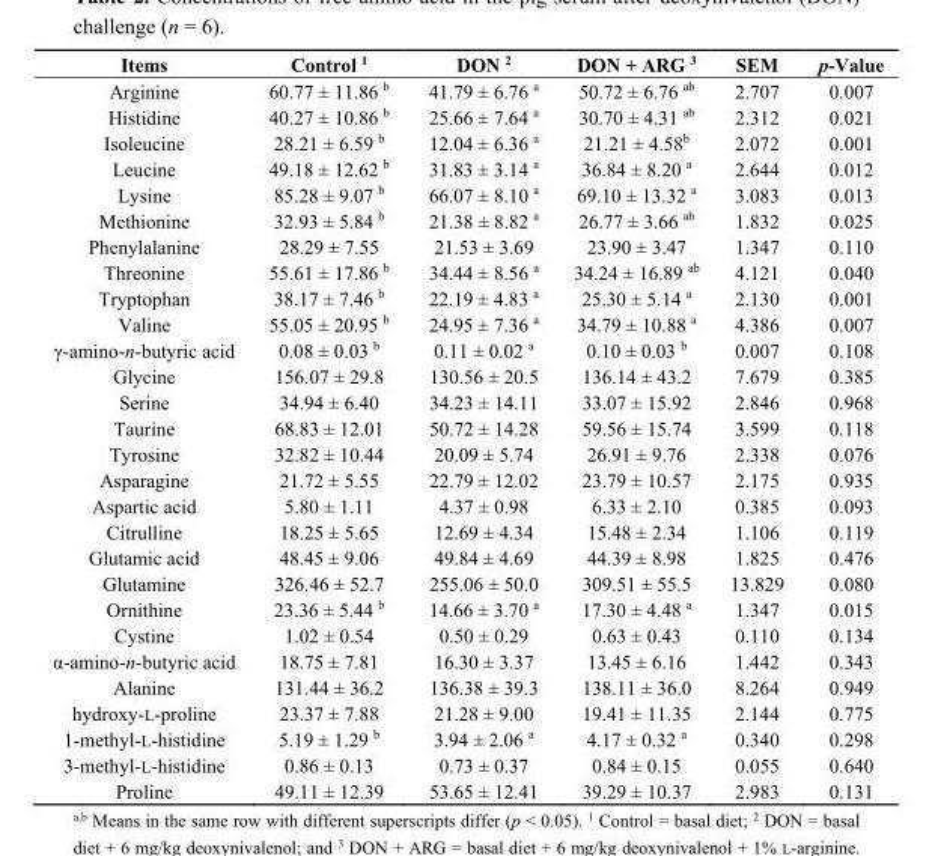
<table><thead><tr><td>Items</td><td>Control <sup>1</sup></td><td>DON <sup>2</sup></td><td>DON + ARG <sup>3</sup></td><td>SEM</td><td>p-Value</td></tr></thead><tbody><tr><td>Arginine</td><td>60.77 ± 11.86 <sup>b</sup></td><td>41.79 ± 6.76 <sup>a</sup></td><td>50.72 ± 6.76 <sup>ab</sup></td><td>2.707</td><td>0.007</td></tr><tr><td>Histidine</td><td>40.27 ± 10.86 <sup>b</sup></td><td>25.66 ± 7.64 <sup>a</sup></td><td>30.70 ± 4.31 <sup>ab</sup></td><td>2.312</td><td>0.021</td></tr><tr><td>Isoleucine</td><td>28.21 ± 6.59 <sup>b</sup></td><td>12.04 ± 6.36 <sup>a</sup></td><td>21.21 ± 4.58<sup>b</sup></td><td>2.072</td><td>0.001</td></tr><tr><td>Leucine</td><td>49.18 ± 12.62 <sup>b</sup></td><td>31.83 ± 3.14 <sup>a</sup></td><td>36.84 ± 8.20 <sup>a</sup></td><td>2.644</td><td>0.012</td></tr><tr><td>Lysine</td><td>85.28 ± 9.07 <sup>b</sup></td><td>66.07 ± 8.10 <sup>a</sup></td><td>69.10 ± 13.32 <sup>a</sup></td><td>3.083</td><td>0.013</td></tr><tr><td>Methionine</td><td>32.93 ± 5.84 <sup>b</sup></td><td>21.38 ± 8.82 <sup>a</sup></td><td>26.77 ± 3.66 <sup>ab</sup></td><td>1.832</td><td>0.025</td></tr><tr><td>Phenylalanine</td><td>28.29 ± 7.55</td><td>21.53 ± 3.69</td><td>23.90 ± 3.47</td><td>1.347</td><td>0.110</td></tr><tr><td>Threonine</td><td>55.61 ± 17.86 <sup>b</sup></td><td>34.44 ± 8.56 <sup>a</sup></td><td>34.24 ± 16.89 <sup>ab</sup></td><td>4.121</td><td>0.040</td></tr><tr><td>Tryptophan</td><td>38.17 ± 7.46 <sup>b</sup></td><td>22.19 ± 4.83 <sup>a</sup></td><td>25.30 ± 5.14 <sup>a</sup></td><td>2.130</td><td>0.001</td></tr><tr><td>Valine</td><td>55.05 ± 20.95 <sup>b</sup></td><td>24.95 ± 7.36 <sup>a</sup></td><td>34.79 ± 10.88 <sup>a</sup></td><td>4.386</td><td>0.007</td></tr><tr><td>γ-amino-n-butyric acid</td><td>0.08 ± 0.03 <sup>b</sup></td><td>0.11 ± 0.02 <sup>a</sup></td><td>0.10 ± 0.03 <sup>b</sup></td><td>0.007</td><td>0.108</td></tr><tr><td>Glycine</td><td>156.07 ± 29.8</td><td>130.56 ± 20.5</td><td>136.14 ± 43.2</td><td>7.679</td><td>0.385</td></tr><tr><td>Serine</td><td>34.94 ± 6.40</td><td>34.23 ± 14.11</td><td>33.07 ± 15.92</td><td>2.846</td><td>0.968</td></tr><tr><td>Taurine</td><td>68.83 ± 12.01</td><td>50.72 ± 14.28</td><td>59.56 ± 15.74</td><td>3.599</td><td>0.118</td></tr><tr><td>Tyrosine</td><td>32.82 ± 10.44</td><td>20.09 ± 5.74</td><td>26.91 ± 9.76</td><td>2.338</td><td>0.076</td></tr><tr><td>Asparagine</td><td>21.72 ± 5.55</td><td>22.79 ± 12.02</td><td>23.79 ± 10.57</td><td>2.175</td><td>0.935</td></tr><tr><td>Aspartic acid</td><td>5.80 ± 1.11</td><td>4.37 ± 0.98</td><td>6.33 ± 2.10</td><td>0.385</td><td>0.093</td></tr><tr><td>Citrulline</td><td>18.25 ± 5.65</td><td>12.69 ± 4.34</td><td>15.48 ± 2.34</td><td>1.106</td><td>0.119</td></tr><tr><td>Glutamic acid</td><td>48.45 ± 9.06</td><td>49.84 ± 4.69</td><td>44.39 ± 8.98</td><td>1.825</td><td>0.476</td></tr><tr><td>Glutamine</td><td>326.46 ± 52.7</td><td>255.06 ± 50.0</td><td>309.51 ± 55.5</td><td>13.829</td><td>0.080</td></tr><tr><td>Ornithine</td><td>23.36 ± 5.44 <sup>b</sup></td><td>14.66 ± 3.70 <sup>a</sup></td><td>17.30 ± 4.48 <sup>a</sup></td><td>1.347</td><td>0.015</td></tr><tr><td>Cystine</td><td>1.02 ± 0.54</td><td>0.50 ± 0.29</td><td>0.63 ± 0.43</td><td>0.110</td><td>0.134</td></tr><tr><td>α-amino-n-butyric acid</td><td>18.75 ± 7.81</td><td>16.30 ± 3.37</td><td>13.45 ± 6.16</td><td>1.442</td><td>0.343</td></tr><tr><td>Alanine</td><td>131.44 ± 36.2</td><td>136.38 ± 39.3</td><td>138.11 ± 36.0</td><td>8.264</td><td>0.949</td></tr><tr><td>hydroxy-L-proline</td><td>23.37 ± 7.88</td><td>21.28 ± 9.00</td><td>19.41 ± 11.35</td><td>2.144</td><td>0.775</td></tr><tr><td>1-methyl-L-histidine</td><td>5.19 ± 1.29 <sup>b</sup></td><td>3.94 ± 2.06 <sup>a</sup></td><td>4.17 ± 0.32 <sup>a</sup></td><td>0.340</td><td>0.298</td></tr><tr><td>3-methyl-L-histidine</td><td>0.86 ± 0.13</td><td>0.73 ± 0.37</td><td>0.84 ± 0.15</td><td>0.055</td><td>0.640</td></tr><tr><td>Proline</td><td>49.11 ± 12.39</td><td>53.65 ± 12.41</td><td>39.29 ± 10.37</td><td>2.983</td><td>0.131</td></tr></tbody></table>